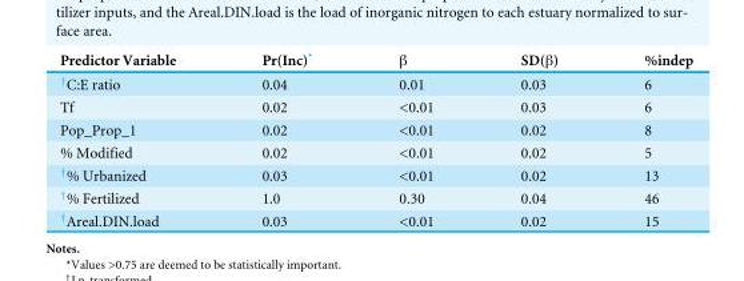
<table><thead><tr><td>Predictor Variable</td><td>Pr(Inc)*</td><td>β</td><td>SD(β)</td><td>%indep</td></tr></thead><tbody><tr><td><sup>†</sup>C:E ratio</td><td>0.04</td><td>0.01</td><td>0.03</td><td>6</td></tr><tr><td>Tf</td><td>0.02</td><td>&lt;0.01</td><td>0.03</td><td>6</td></tr><tr><td>Pop_Prop_1</td><td>0.02</td><td>&lt;0.01</td><td>0.02</td><td>8</td></tr><tr><td>% Modified</td><td>0.02</td><td>&lt;0.01</td><td>0.02</td><td>5</td></tr><tr><td><sup>†</sup>% Urbanized</td><td>0.03</td><td>&lt;0.01</td><td>0.02</td><td>13</td></tr><tr><td><sup>†</sup>% Fertilized</td><td>1.0</td><td>0.30</td><td>0.04</td><td>46</td></tr><tr><td><sup>†</sup>Areal.DIN.load</td><td>0.03</td><td>&lt;0.01</td><td>0.02</td><td>15</td></tr></tbody></table>